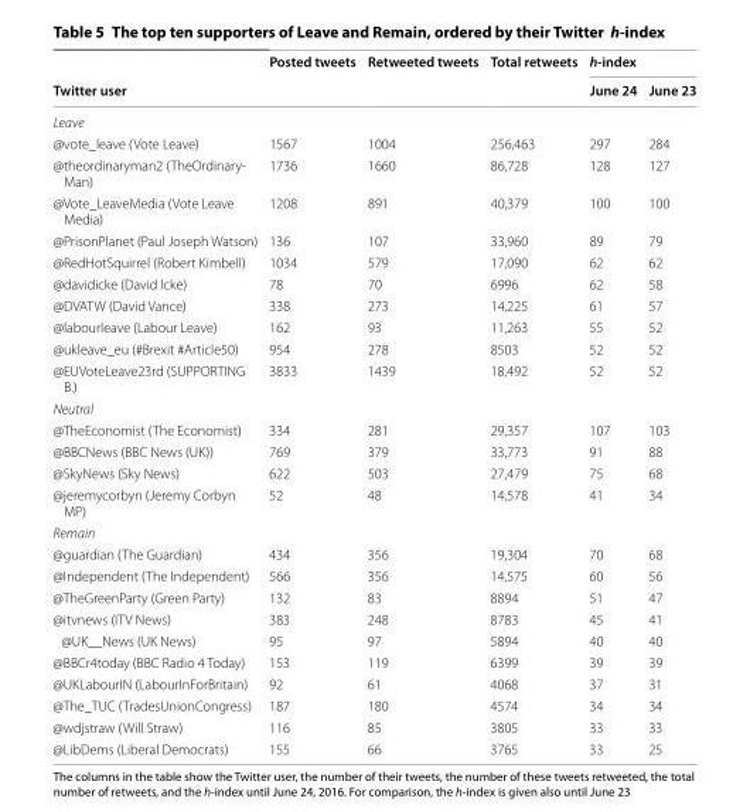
<table><thead><tr><td rowspan="2">Twitter user</td><td rowspan="2">Posted tweets</td><td rowspan="2">Retweeted tweets</td><td rowspan="2">Total retweets</td><td colspan="2">h-index</td></tr><tr><td>June 24</td><td>June 23</td></tr></thead><tbody><tr><td colspan="6">Leave</td></tr><tr><td>@vote_leave (Vote Leave)</td><td>1567</td><td>1004</td><td>256,463</td><td>297</td><td>284</td></tr><tr><td>@theordinaryman2 (TheOrdinary- Man)</td><td>1736</td><td>1660</td><td>86,728</td><td>128</td><td>127</td></tr><tr><td>@Vote_LeaveMedia (Vote Leave Media)</td><td>1208</td><td>891</td><td>40,379</td><td>100</td><td>100</td></tr><tr><td>@PrisonPlanet (Paul Joseph Watson)</td><td>136</td><td>107</td><td>33,960</td><td>89</td><td>79</td></tr><tr><td>@RedHotSquirrel (Robert Kimbell)</td><td>1034</td><td>579</td><td>17,090</td><td>62</td><td>62</td></tr><tr><td>@davidicke (David Icke)</td><td>78</td><td>70</td><td>6996</td><td>62</td><td>58</td></tr><tr><td>@DVATW (David Vance)</td><td>338</td><td>273</td><td>14,225</td><td>61</td><td>57</td></tr><tr><td>@labourleave (Labour Leave)</td><td>162</td><td>93</td><td>11,263</td><td>55</td><td>52</td></tr><tr><td>@ukleave_eu (#Brexit #Article50)</td><td>954</td><td>278</td><td>8503</td><td>52</td><td>52</td></tr><tr><td>@EUVoteLeave23rd (SUPPORTING B.)</td><td>3833</td><td>1439</td><td>18,492</td><td>52</td><td>52</td></tr><tr><td colspan="6">Neutral</td></tr><tr><td>@TheEconomist (The Economist)</td><td>334</td><td>281</td><td>29,357</td><td>107</td><td>103</td></tr><tr><td>@BBCNews (BBC News (UK))</td><td>769</td><td>379</td><td>33,773</td><td>91</td><td>88</td></tr><tr><td>@SkyNews (Sky News)</td><td>622</td><td>503</td><td>27,479</td><td>75</td><td>68</td></tr><tr><td>@jeremycorbyn (Jeremy Corbyn MP)</td><td>52</td><td>48</td><td>14,578</td><td>41</td><td>34</td></tr><tr><td colspan="6">Remain</td></tr><tr><td>@guardian (The Guardian)</td><td>434</td><td>356</td><td>19,304</td><td>70</td><td>68</td></tr><tr><td>@Independent (The Independent)</td><td>566</td><td>356</td><td>14,575</td><td>60</td><td>56</td></tr><tr><td>@TheGreenParty (Green Party)</td><td>132</td><td>83</td><td>8894</td><td>51</td><td>47</td></tr><tr><td>@itvnews (ITV News)</td><td>383</td><td>248</td><td>8783</td><td>45</td><td>41</td></tr><tr><td>@UK__News (UK News)</td><td>95</td><td>97</td><td>5894</td><td>40</td><td>40</td></tr><tr><td>@BBCr4today (BBC Radio 4 Today)</td><td>153</td><td>119</td><td>6399</td><td>39</td><td>39</td></tr><tr><td>@UKLabourIN (LabourInForBritain)</td><td>92</td><td>61</td><td>4068</td><td>37</td><td>31</td></tr><tr><td>@The_TUC (TradesUnionCongress)</td><td>187</td><td>180</td><td>4574</td><td>34</td><td>34</td></tr><tr><td>@wdjstraw (Will Straw)</td><td>116</td><td>85</td><td>3805</td><td>33</td><td>33</td></tr><tr><td>@LibDems (Liberal Democrats)</td><td>155</td><td>66</td><td>3765</td><td>33</td><td>25</td></tr></tbody></table>